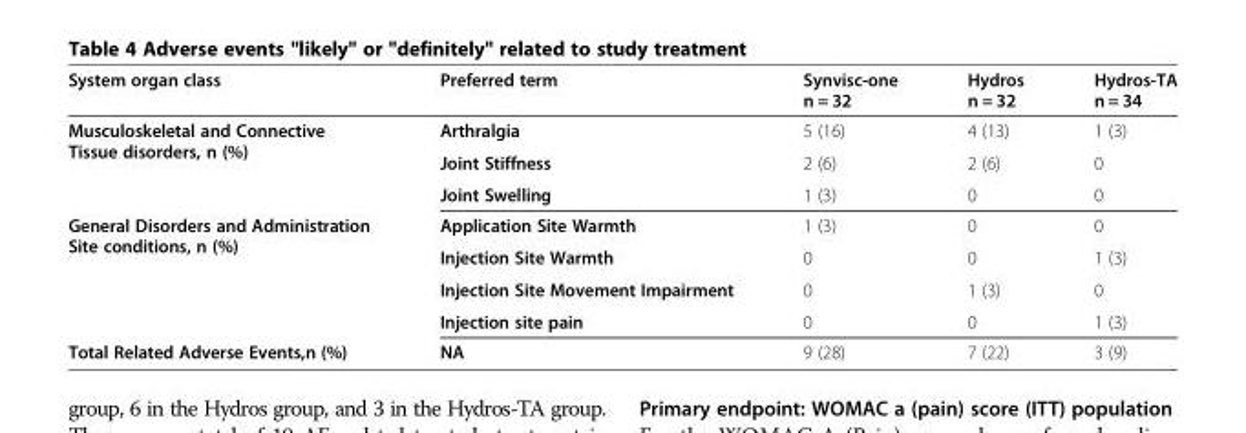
<table><thead><tr><td>System organ class</td><td>Preferred term</td><td>Synvisc-one n = 32</td><td>Hydros n = 32</td><td>Hydros-TA n = 34</td></tr></thead><tbody><tr><td rowspan="3">Musculoskeletal and Connective Tissue disorders, n (%)</td><td>Arthralgia</td><td>5 (16)</td><td>4 (13)</td><td>1 (3)</td></tr><tr><td>Joint Stiffness</td><td>2 (6)</td><td>2 (6)</td><td>0</td></tr><tr><td>Joint Swelling</td><td>1 (3)</td><td>0</td><td>0</td></tr><tr><td rowspan="4">General Disorders and Administration Site conditions, n (%)</td><td>Application Site Warmth</td><td>1 (3)</td><td>0</td><td>0</td></tr><tr><td>Injection Site Warmth</td><td>0</td><td>0</td><td>1 (3)</td></tr><tr><td>Injection Site Movement Impairment</td><td>0</td><td>1 (3)</td><td>0</td></tr><tr><td>Injection site pain</td><td>0</td><td>0</td><td>1 (3)</td></tr><tr><td>Total Related Adverse Events,n (%)</td><td>NA</td><td>9 (28)</td><td>7 (22)</td><td>3 (9)</td></tr></tbody></table>